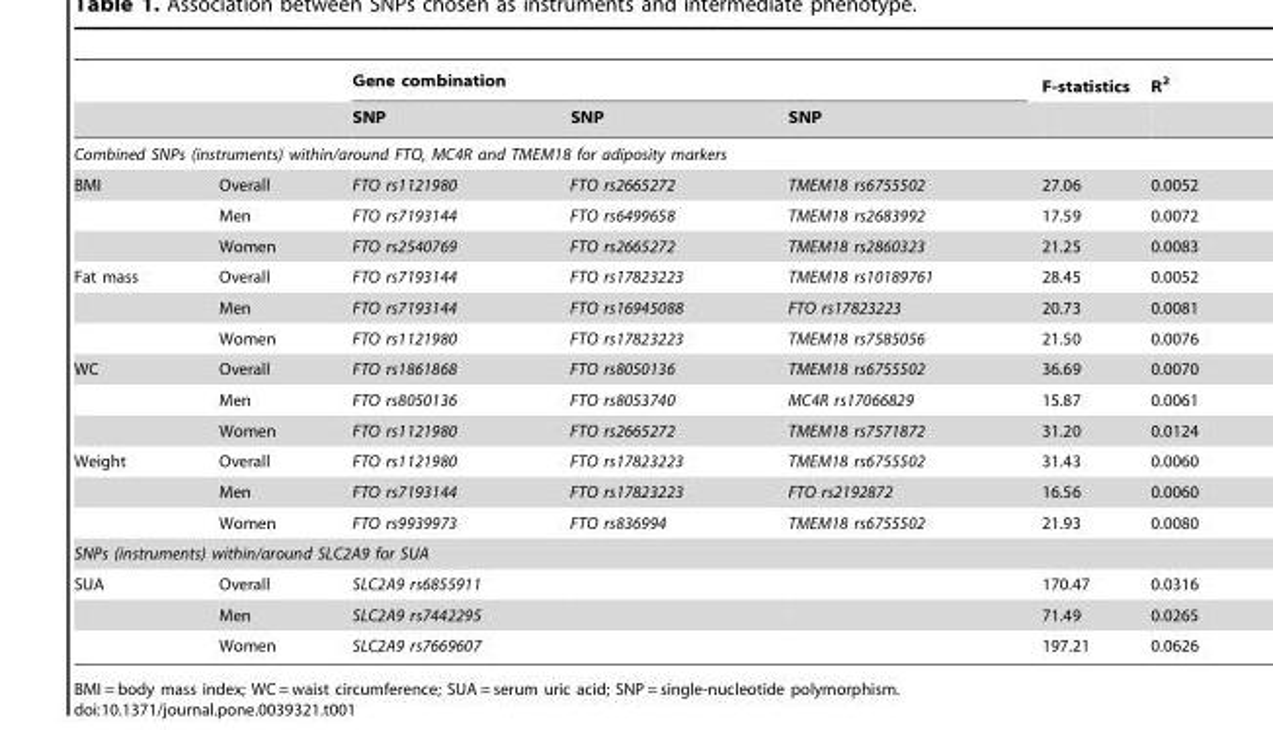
<table><thead><tr><td rowspan="2"></td><td rowspan="2"></td><td colspan="3">Gene combination</td><td rowspan="2">F-statistics</td><td rowspan="2">R<sup>2</sup></td></tr><tr><td>SNP</td><td>SNP</td><td>SNP</td></tr></thead><tbody><tr><td colspan="7">Combined SNPs (instruments) within/around FTO, MC4R and TMEM18 for adiposity markers</td></tr><tr><td rowspan="3">BMI</td><td>Overall</td><td>FTO rs1121980</td><td>FTO rs2665272</td><td>TMEM18 rs6755502</td><td>27.06</td><td>0.0052</td></tr><tr><td>Men</td><td>FTO rs7193144</td><td>FTO rs6499658</td><td>TMEM18 rs2683992</td><td>17.59</td><td>0.0072</td></tr><tr><td>Women</td><td>FTO rs2540769</td><td>FTO rs2665272</td><td>TMEM18 rs2860323</td><td>21.25</td><td>0.0083</td></tr><tr><td rowspan="3">Fat mass</td><td>Overall</td><td>FTO rs7193144</td><td>FTO rs17823223</td><td>TMEM18 rs10189761</td><td>28.45</td><td>0.0052</td></tr><tr><td>Men</td><td>FTO rs7193144</td><td>FTO rs16945088</td><td>FTO rs17823223</td><td>20.73</td><td>0.0081</td></tr><tr><td>Women</td><td>FTO rs1121980</td><td>FTO rs17823223</td><td>TMEM18 rs7585056</td><td>21.50</td><td>0.0076</td></tr><tr><td rowspan="3">WC</td><td>Overall</td><td>FTO rs1861868</td><td>FTO rs8050136</td><td>TMEM18 rs6755502</td><td>36.69</td><td>0.0070</td></tr><tr><td>Men</td><td>FTO rs8050136</td><td>FTO rs8053740</td><td>MC4R rs17066829</td><td>15.87</td><td>0.0061</td></tr><tr><td>Women</td><td>FTO rs1121980</td><td>FTO rs2665272</td><td>TMEM18 rs7571872</td><td>31.20</td><td>0.0124</td></tr><tr><td rowspan="3">Weight</td><td>Overall</td><td>FTO rs1121980</td><td>FTO rs17823223</td><td>TMEM18 rs6755502</td><td>31.43</td><td>0.0060</td></tr><tr><td>Men</td><td>FTO rs7193144</td><td>FTO rs17823223</td><td>FTO rs2192872</td><td>16.56</td><td>0.0060</td></tr><tr><td>Women</td><td>FTO rs9939973</td><td>FTO rs836994</td><td>TMEM18 rs6755502</td><td>21.93</td><td>0.0080</td></tr><tr><td colspan="7">SNPs (instruments) within/around SLC2A9 for SUA</td></tr><tr><td rowspan="3">SUA</td><td>Overall</td><td>SLC2A9 rs6855911</td><td></td><td></td><td>170.47</td><td>0.0316</td></tr><tr><td>Men</td><td>SLC2A9 rs7442295</td><td></td><td></td><td>71.49</td><td>0.0265</td></tr><tr><td>Women</td><td>SLC2A9 rs7669607</td><td></td><td></td><td>197.21</td><td>0.0626</td></tr></tbody></table>